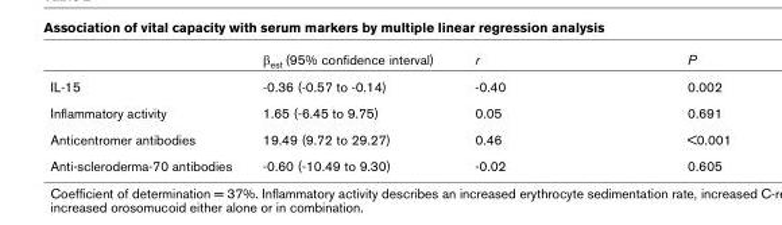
<table><thead><tr><td></td><td>β<sub>est</sub> (95% confidence interval)</td><td>r</td><td>P</td></tr></thead><tbody><tr><td>IL-15</td><td>-0.36 (-0.57 to -0.14)</td><td>-0.40</td><td>0.002</td></tr><tr><td>Inflammatory activity</td><td>1.65 (-6.45 to 9.75)</td><td>0.05</td><td>0.691</td></tr><tr><td>Anticentromer antibodies</td><td>19.49 (9.72 to 29.27)</td><td>0.46</td><td>&lt;0.001</td></tr><tr><td>Anti-scleroderma-70 antibodies</td><td>-0.60 (-10.49 to 9.30)</td><td>-0.02</td><td>0.605</td></tr></tbody></table>